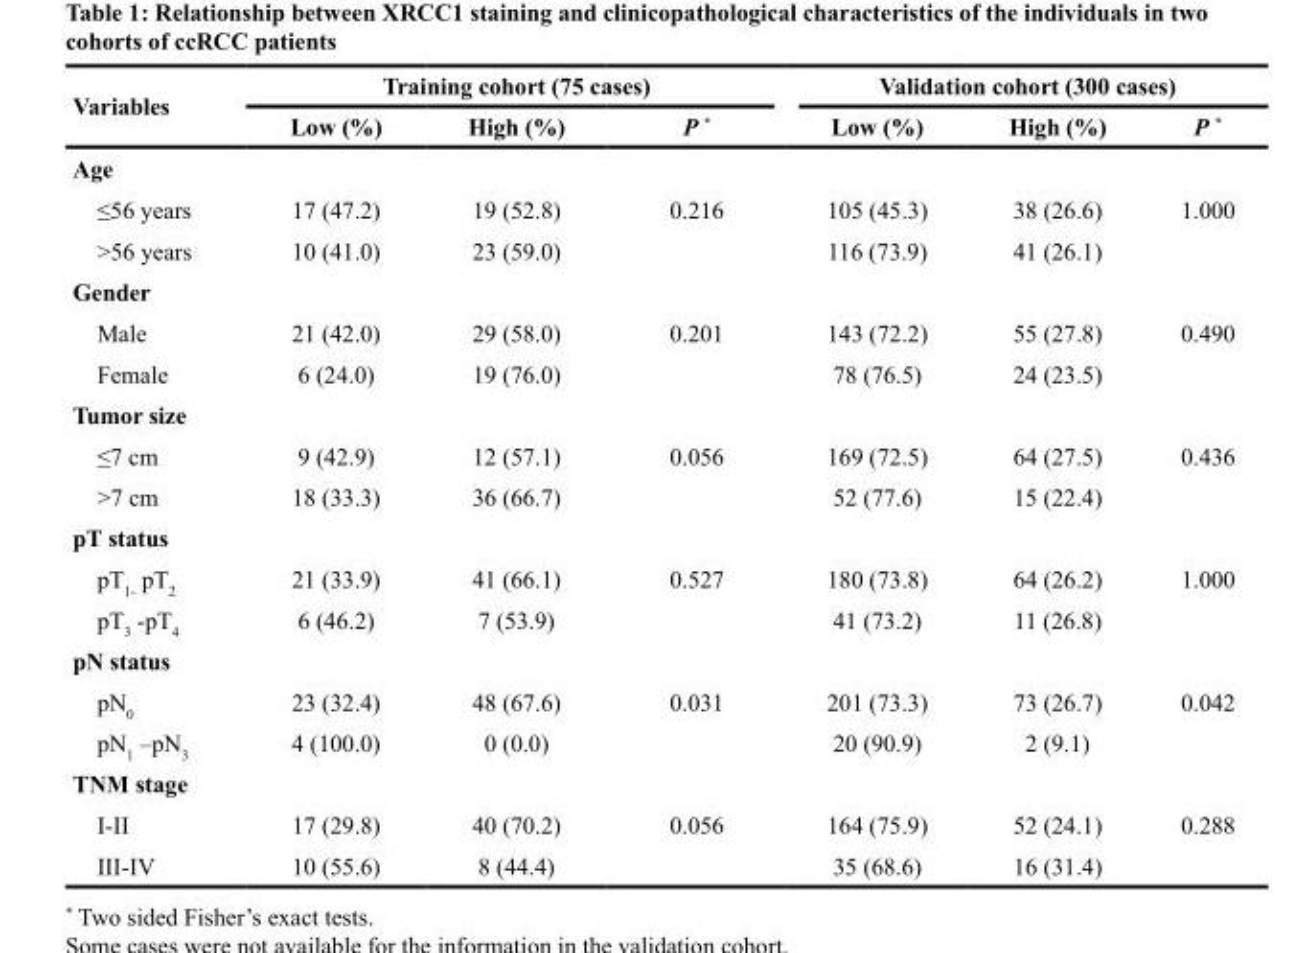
<table><thead><tr><td rowspan="2">Variables</td><td colspan="3">Training cohort (75 cases)</td><td colspan="3">Validation cohort (300 cases)</td></tr><tr><td>Low (%)</td><td>High (%)</td><td>P *</td><td>Low (%)</td><td>High (%)</td><td>P *</td></tr></thead><tbody><tr><td colspan="7">Age</td></tr><tr><td>≤56 years</td><td>17 (47.2)</td><td>19 (52.8)</td><td>0.216</td><td>105 (45.3)</td><td>38 (26.6)</td><td>1.000</td></tr><tr><td>&gt;56 years</td><td>10 (41.0)</td><td>23 (59.0)</td><td></td><td>116 (73.9)</td><td>41 (26.1)</td><td></td></tr><tr><td colspan="7">Gender</td></tr><tr><td>Male</td><td>21 (42.0)</td><td>29 (58.0)</td><td>0.201</td><td>143 (72.2)</td><td>55 (27.8)</td><td>0.490</td></tr><tr><td>Female</td><td>6 (24.0)</td><td>19 (76.0)</td><td></td><td>78 (76.5)</td><td>24 (23.5)</td><td></td></tr><tr><td colspan="7">Tumor size</td></tr><tr><td>≤7 cm</td><td>9 (42.9)</td><td>12 (57.1)</td><td>0.056</td><td>169 (72.5)</td><td>64 (27.5)</td><td>0.436</td></tr><tr><td>&gt;7 cm</td><td>18 (33.3)</td><td>36 (66.7)</td><td></td><td>52 (77.6)</td><td>15 (22.4)</td><td></td></tr><tr><td colspan="7">pT status</td></tr><tr><td>pT<sub>1-</sub> pT<sub>2</sub></td><td>21 (33.9)</td><td>41 (66.1)</td><td>0.527</td><td>180 (73.8)</td><td>64 (26.2)</td><td>1.000</td></tr><tr><td>pT<sub>3</sub> -pT<sub>4</sub></td><td>6 (46.2)</td><td>7 (53.9)</td><td></td><td>41 (73.2)</td><td>11 (26.8)</td><td></td></tr><tr><td colspan="7">pN status</td></tr><tr><td>pN<sub>0</sub></td><td>23 (32.4)</td><td>48 (67.6)</td><td>0.031</td><td>201 (73.3)</td><td>73 (26.7)</td><td>0.042</td></tr><tr><td>pN<sub>1</sub> –pN<sub>3</sub></td><td>4 (100.0)</td><td>0 (0.0)</td><td></td><td>20 (90.9)</td><td>2 (9.1)</td><td></td></tr><tr><td colspan="7">TNM stage</td></tr><tr><td>I-II</td><td>17 (29.8)</td><td>40 (70.2)</td><td>0.056</td><td>164 (75.9)</td><td>52 (24.1)</td><td>0.288</td></tr><tr><td>III-IV</td><td>10 (55.6)</td><td>8 (44.4)</td><td></td><td>35 (68.6)</td><td>16 (31.4)</td><td></td></tr></tbody></table>